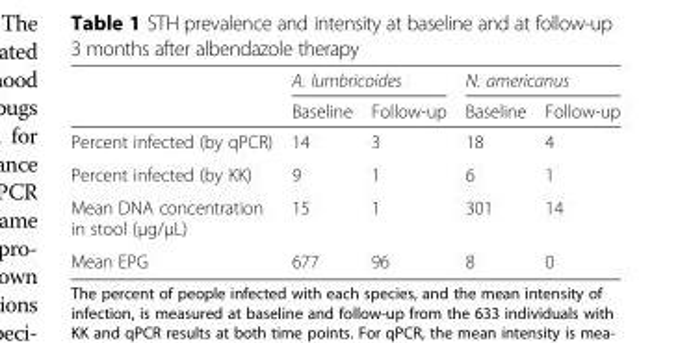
<table><thead><tr><td rowspan="2"></td><td colspan="2">A. lumbricoides</td><td colspan="2">N. americanus</td></tr><tr><td>Baseline</td><td>Follow-up</td><td>Baseline</td><td>Follow-up</td></tr></thead><tbody><tr><td>Percent infected (by qPCR)</td><td>14</td><td>3</td><td>18</td><td>4</td></tr><tr><td>Percent infected (by KK)</td><td>9</td><td>1</td><td>6</td><td>1</td></tr><tr><td>Mean DNA concentration in stool (μg/μL)</td><td>15</td><td>1</td><td>301</td><td>14</td></tr><tr><td>Mean EPG</td><td>677</td><td>96</td><td>8</td><td>0</td></tr></tbody></table>